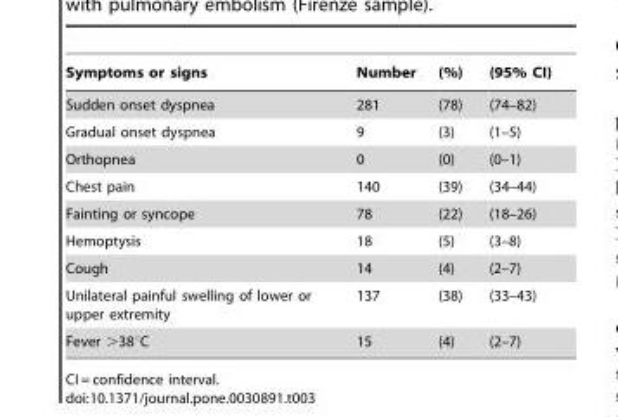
<table><thead><tr><td>Symptoms or signs</td><td>Number</td><td>(%)</td><td>(95% CI)</td></tr></thead><tbody><tr><td>Sudden onset dyspnea</td><td>281</td><td>(78)</td><td>(74–82)</td></tr><tr><td>Gradual onset dyspnea</td><td>9</td><td>(3)</td><td>(1–5)</td></tr><tr><td>Orthopnea</td><td>0</td><td>(0)</td><td>(0–1)</td></tr><tr><td>Chest pain</td><td>140</td><td>(39)</td><td>(34–44)</td></tr><tr><td>Fainting or syncope</td><td>78</td><td>(22)</td><td>(18–26)</td></tr><tr><td>Hemoptysis</td><td>18</td><td>(5)</td><td>(3–8)</td></tr><tr><td>Cough</td><td>14</td><td>(4)</td><td>(2–7)</td></tr><tr><td>Unilateral painful swelling of lower or upper extremity</td><td>137</td><td>(38)</td><td>(33–43)</td></tr><tr><td>Fever &gt;38°C</td><td>15</td><td>(4)</td><td>(2–7)</td></tr></tbody></table>